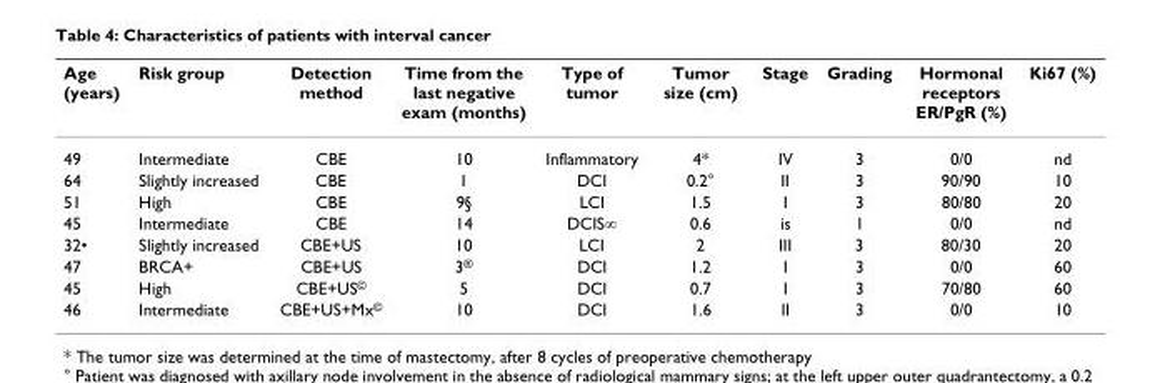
<table><thead><tr><td>Age (years)</td><td>Risk group</td><td>Detection method</td><td>Time from the last negative exam (months)</td><td>Type of tumor</td><td>Tumor size (cm)</td><td>Stage</td><td>Grading</td><td>Hormonal receptors ER/PgR (%)</td><td>Ki67 (%)</td></tr></thead><tbody><tr><td>49</td><td>Intermediate</td><td>CBE</td><td>10</td><td>Inflammatory</td><td>4*</td><td>IV</td><td>3</td><td>0/0</td><td>nd</td></tr><tr><td>64</td><td>Slightly increased</td><td>CBE</td><td>1</td><td>DCI</td><td>0.2°</td><td>II</td><td>3</td><td>90/90</td><td>10</td></tr><tr><td>51</td><td>High</td><td>CBE</td><td>9§</td><td>LCI</td><td>1.5</td><td>I</td><td>3</td><td>80/80</td><td>20</td></tr><tr><td>45</td><td>Intermediate</td><td>CBE</td><td>14</td><td>DCIS∞</td><td>0.6</td><td>is</td><td>1</td><td>0/0</td><td>nd</td></tr><tr><td>32•</td><td>Slightly increased</td><td>CBE+US</td><td>10</td><td>LCI</td><td>2</td><td>III</td><td>3</td><td>80/30</td><td>20</td></tr><tr><td>47</td><td>BRCA+</td><td>CBE+US</td><td>3®</td><td>DCI</td><td>1.2</td><td>I</td><td>3</td><td>0/0</td><td>60</td></tr><tr><td>45</td><td>High</td><td>CBE+US©</td><td>5</td><td>DCI</td><td>0.7</td><td>I</td><td>3</td><td>70/80</td><td>60</td></tr><tr><td>46</td><td>Intermediate</td><td>CBE+US+Mx©</td><td>10</td><td>DCI</td><td>1.6</td><td>II</td><td>3</td><td>0/0</td><td>10</td></tr></tbody></table>